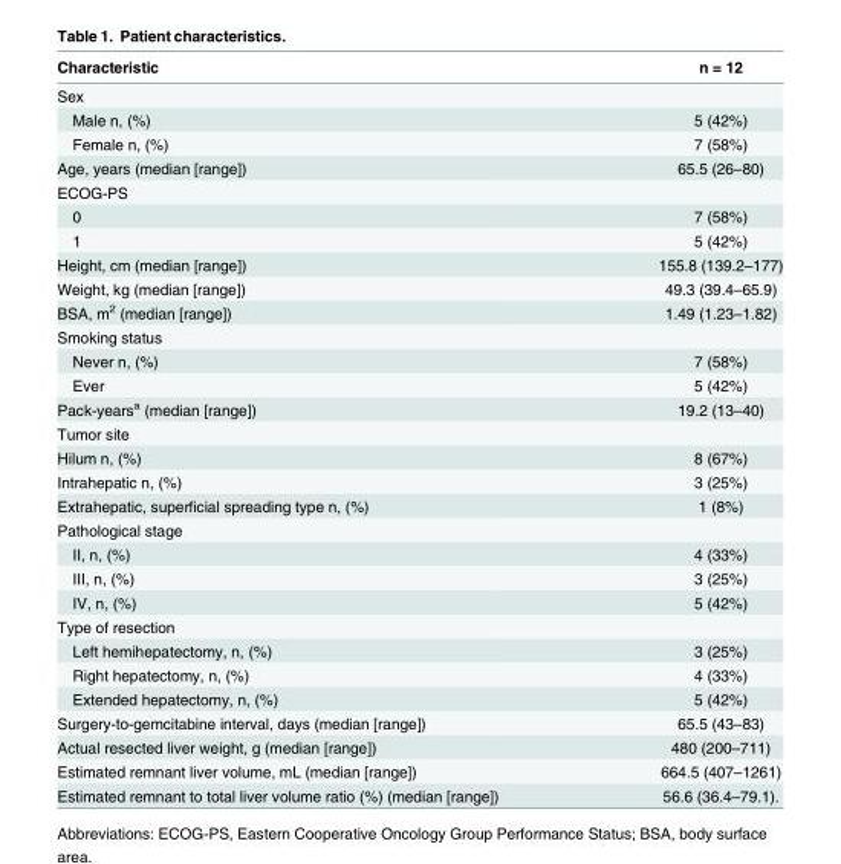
<table><thead><tr><td>Characteristic</td><td>n = 12</td></tr></thead><tbody><tr><td colspan="2">Sex</td></tr><tr><td>Male n, (%)</td><td>5 (42%)</td></tr><tr><td>Female n, (%)</td><td>7 (58%)</td></tr><tr><td>Age, years (median [range])</td><td>65.5 (26–80)</td></tr><tr><td colspan="2">ECOG-PS</td></tr><tr><td>0</td><td>7 (58%)</td></tr><tr><td>1</td><td>5 (42%)</td></tr><tr><td>Height, cm (median [range])</td><td>155.8 (139.2–177)</td></tr><tr><td>Weight, kg (median [range])</td><td>49.3 (39.4–65.9)</td></tr><tr><td>BSA, m<sup>2</sup> (median [range])</td><td>1.49 (1.23–1.82)</td></tr><tr><td colspan="2">Smoking status</td></tr><tr><td>Never n, (%)</td><td>7 (58%)</td></tr><tr><td>Ever</td><td>5 (42%)</td></tr><tr><td>Pack-years<sup>a</sup> (median [range])</td><td>19.2 (13–40)</td></tr><tr><td colspan="2">Tumor site</td></tr><tr><td>Hilum n, (%)</td><td>8 (67%)</td></tr><tr><td>Intrahepatic n, (%)</td><td>3 (25%)</td></tr><tr><td>Extrahepatic, superficial spreading type n, (%)</td><td>1 (8%)</td></tr><tr><td colspan="2">Pathological stage</td></tr><tr><td>II, n, (%)</td><td>4 (33%)</td></tr><tr><td>III, n, (%)</td><td>3 (25%)</td></tr><tr><td>IV, n, (%)</td><td>5 (42%)</td></tr><tr><td colspan="2">Type of resection</td></tr><tr><td>Left hemihepatectomy, n, (%)</td><td>3 (25%)</td></tr><tr><td>Right hepatectomy, n, (%)</td><td>4 (33%)</td></tr><tr><td>Extended hepatectomy, n, (%)</td><td>5 (42%)</td></tr><tr><td>Surgery-to-gemcitabine interval, days (median [range])</td><td>65.5 (43–83)</td></tr><tr><td>Actual resected liver weight, g (median [range])</td><td>480 (200–711)</td></tr><tr><td>Estimated remnant liver volume, mL (median [range])</td><td>664.5 (407–1261)</td></tr><tr><td>Estimated remnant to total liver volume ratio (%) (median [range])</td><td>56.6 (36.4–79.1).</td></tr></tbody></table>